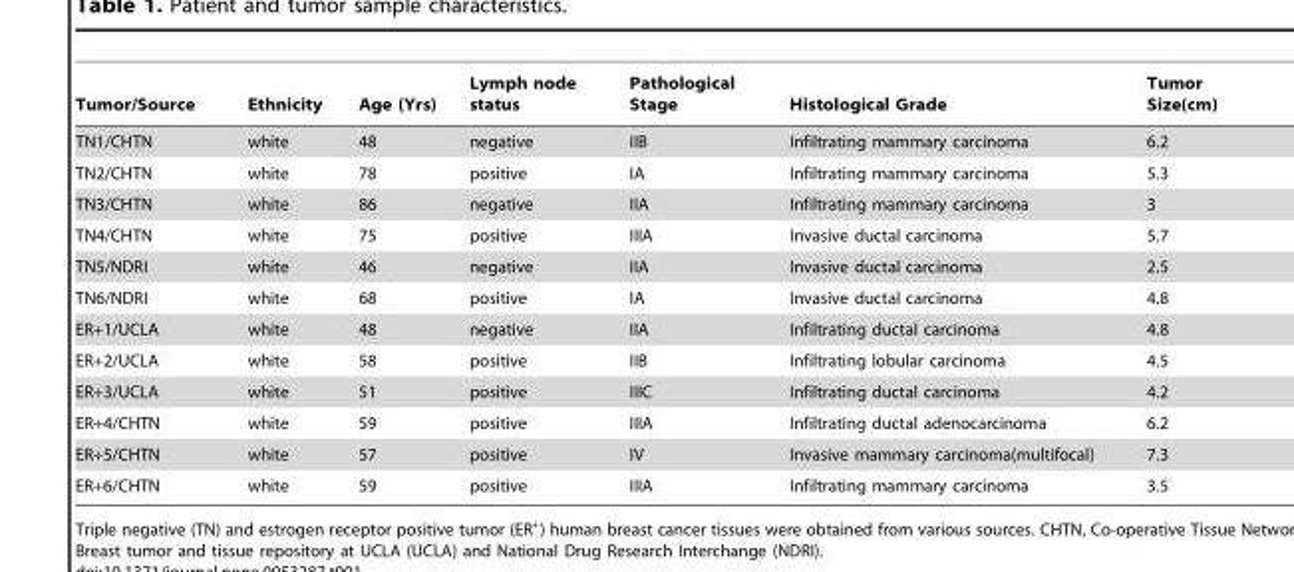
<table><thead><tr><td>Tumor/Source</td><td>Ethnicity</td><td>Age (Yrs)</td><td>Lymph node status</td><td>Pathological Stage</td><td>Histological Grade</td><td>Tumor Size(cm)</td></tr></thead><tbody><tr><td>TN1/CHTN</td><td>white</td><td>48</td><td>negative</td><td>IIB</td><td>Infiltrating mammary carcinoma</td><td>6.2</td></tr><tr><td>TN2/CHTN</td><td>white</td><td>78</td><td>positive</td><td>IA</td><td>Infiltrating mammary carcinoma</td><td>5.3</td></tr><tr><td>TN3/CHTN</td><td>white</td><td>86</td><td>negative</td><td>IIA</td><td>Infiltrating mammary carcinoma</td><td>3</td></tr><tr><td>TN4/CHTN</td><td>white</td><td>75</td><td>positive</td><td>IIIA</td><td>Invasive ductal carcinoma</td><td>5.7</td></tr><tr><td>TN5/NDRI</td><td>white</td><td>46</td><td>negative</td><td>IIA</td><td>Invasive ductal carcinoma</td><td>2.5</td></tr><tr><td>TN6/NDRI</td><td>white</td><td>68</td><td>positive</td><td>IA</td><td>Invasive ductal carcinoma</td><td>4.8</td></tr><tr><td>ER+1/UCLA</td><td>white</td><td>48</td><td>negative</td><td>IIA</td><td>Infiltrating ductal carcinoma</td><td>4.8</td></tr><tr><td>ER+2/UCLA</td><td>white</td><td>58</td><td>positive</td><td>IIB</td><td>Infiltrating lobular carcinoma</td><td>4.5</td></tr><tr><td>ER+3/UCLA</td><td>white</td><td>51</td><td>positive</td><td>IIIC</td><td>Infiltrating ductal carcinoma</td><td>4.2</td></tr><tr><td>ER+4/CHTN</td><td>white</td><td>59</td><td>positive</td><td>IIIA</td><td>Infiltrating ductal adenocarcinoma</td><td>6.2</td></tr><tr><td>ER+5/CHTN</td><td>white</td><td>57</td><td>positive</td><td>IV</td><td>Invasive mammary carcinoma(multifocal)</td><td>7.3</td></tr><tr><td>ER+6/CHTN</td><td>white</td><td>59</td><td>positive</td><td>IIIA</td><td>Infiltrating mammary carcinoma</td><td>3.5</td></tr></tbody></table>